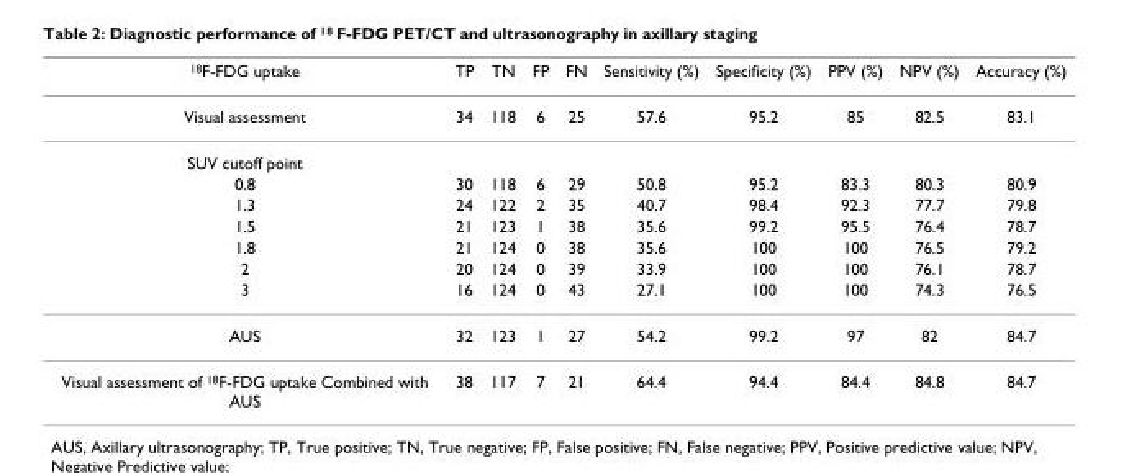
<table><thead><tr><td><sup>18</sup>F-FDG uptake</td><td>TP</td><td>TN</td><td>FP</td><td>FN</td><td>Sensitivity (%)</td><td>Specificity (%)</td><td>PPV (%)</td><td>NPV (%)</td><td>Accuracy (%)</td></tr></thead><tbody><tr><td>Visual assessment</td><td>34</td><td>118</td><td>6</td><td>25</td><td>57.6</td><td>95.2</td><td>85</td><td>82.5</td><td>83.1</td></tr><tr><td colspan="10">SUV cutoff point</td></tr><tr><td>0.8</td><td>30</td><td>118</td><td>6</td><td>29</td><td>50.8</td><td>95.2</td><td>83.3</td><td>80.3</td><td>80.9</td></tr><tr><td>1.3</td><td>24</td><td>122</td><td>2</td><td>35</td><td>40.7</td><td>98.4</td><td>92.3</td><td>77.7</td><td>79.8</td></tr><tr><td>1.5</td><td>21</td><td>123</td><td>1</td><td>38</td><td>35.6</td><td>99.2</td><td>95.5</td><td>76.4</td><td>78.7</td></tr><tr><td>1.8</td><td>21</td><td>124</td><td>0</td><td>38</td><td>35.6</td><td>100</td><td>100</td><td>76.5</td><td>79.2</td></tr><tr><td>2</td><td>20</td><td>124</td><td>0</td><td>39</td><td>33.9</td><td>100</td><td>100</td><td>76.1</td><td>78.7</td></tr><tr><td>3</td><td>16</td><td>124</td><td>0</td><td>43</td><td>27.1</td><td>100</td><td>100</td><td>74.3</td><td>76.5</td></tr><tr><td>AUS</td><td>32</td><td>123</td><td>1</td><td>27</td><td>54.2</td><td>99.2</td><td>97</td><td>82</td><td>84.7</td></tr><tr><td>Visual assessment of <sup>18</sup>F-FDG uptake Combined with AUS</td><td>38</td><td>117</td><td>7</td><td>21</td><td>64.4</td><td>94.4</td><td>84.4</td><td>84.8</td><td>84.7</td></tr></tbody></table>